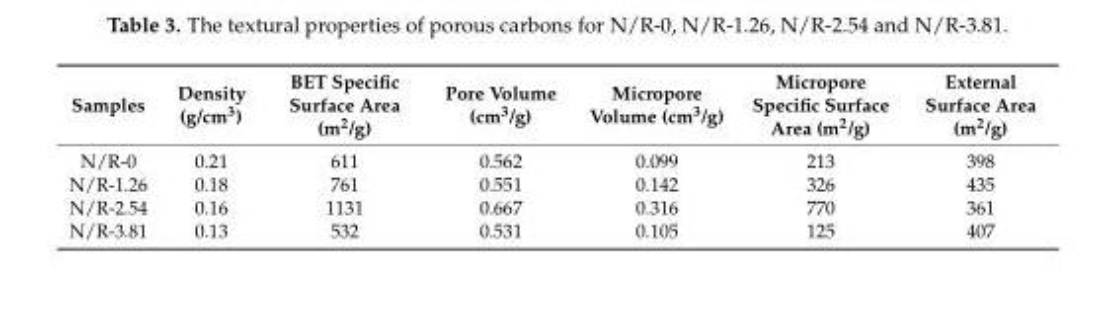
<table><thead><tr><td>Samples</td><td>Density (g/cm<sup>3</sup>)</td><td>BET Specific Surface Area (m<sup>2</sup>/g)</td><td>Pore Volume (cm<sup>3</sup>/g)</td><td>Micropore Volume (cm<sup>3</sup>/g)</td><td>Micropore Specific Surface Area (m<sup>2</sup>/g)</td><td>External Surface Area (m<sup>2</sup>/g)</td></tr></thead><tbody><tr><td>N/R-0</td><td>0.21</td><td>611</td><td>0.562</td><td>0.099</td><td>213</td><td>398</td></tr><tr><td>N/R-1.26</td><td>0.18</td><td>761</td><td>0.551</td><td>0.142</td><td>326</td><td>435</td></tr><tr><td>N/R-2.54</td><td>0.16</td><td>1131</td><td>0.667</td><td>0.316</td><td>770</td><td>361</td></tr><tr><td>N/R-3.81</td><td>0.13</td><td>532</td><td>0.531</td><td>0.105</td><td>125</td><td>407</td></tr></tbody></table>